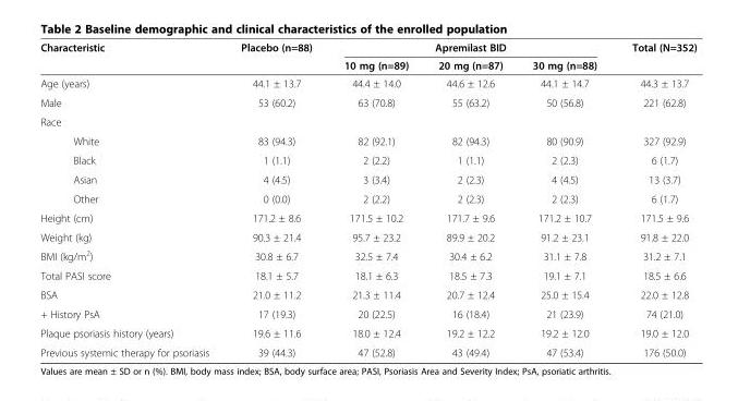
<table><thead><tr><td rowspan="2">Characteristic</td><td rowspan="2">Placebo (n=88)</td><td colspan="3">Apremilast BID</td><td rowspan="2">Total (N=352)</td></tr><tr><td>10 mg (n=89)</td><td>20 mg (n=87)</td><td>30 mg (n=88)</td></tr></thead><tbody><tr><td>Age (years)</td><td>44.1 ± 13.7</td><td>44.4 ± 14.0</td><td>44.6 ± 12.6</td><td>44.1 ± 14.7</td><td>44.3 ± 13.7</td></tr><tr><td>Male</td><td>53 (60.2)</td><td>63 (70.8)</td><td>55 (63.2)</td><td>50 (56.8)</td><td>221 (62.8)</td></tr><tr><td colspan="6">Race</td></tr><tr><td>White</td><td>83 (94.3)</td><td>82 (92.1)</td><td>82 (94.3)</td><td>80 (90.9)</td><td>327 (92.9)</td></tr><tr><td>Black</td><td>1 (1.1)</td><td>2 (2.2)</td><td>1 (1.1)</td><td>2 (2.3)</td><td>6 (1.7)</td></tr><tr><td>Asian</td><td>4 (4.5)</td><td>3 (3.4)</td><td>2 (2.3)</td><td>4 (4.5)</td><td>13 (3.7)</td></tr><tr><td>Other</td><td>0 (0.0)</td><td>2 (2.2)</td><td>2 (2.3)</td><td>2 (2.3)</td><td>6 (1.7)</td></tr><tr><td>Height (cm)</td><td>171.2 ± 8.6</td><td>171.5 ± 10.2</td><td>171.7 ± 9.6</td><td>171.2 ± 10.7</td><td>171.5 ± 9.6</td></tr><tr><td>Weight (kg)</td><td>90.3 ± 21.4</td><td>95.7 ± 23.2</td><td>89.9 ± 20.2</td><td>91.2 ± 23.1</td><td>91.8 ± 22.0</td></tr><tr><td>BMI (kg/m<sup>2</sup>)</td><td>30.8 ± 6.7</td><td>32.5 ± 7.4</td><td>30.4 ± 6.2</td><td>31.1 ± 7.8</td><td>31.2 ± 7.1</td></tr><tr><td>Total PASI score</td><td>18.1 ± 5.7</td><td>18.1 ± 6.3</td><td>18.5 ± 7.3</td><td>19.1 ± 7.1</td><td>18.5 ± 6.6</td></tr><tr><td>BSA</td><td>21.0 ± 11.2</td><td>21.3 ± 11.4</td><td>20.7 ± 12.4</td><td>25.0 ± 15.4</td><td>22.0 ± 12.8</td></tr><tr><td>+ History PsA</td><td>17 (19.3)</td><td>20 (22.5)</td><td>16 (18.4)</td><td>21 (23.9)</td><td>74 (21.0)</td></tr><tr><td>Plaque psoriasis history (years)</td><td>19.6 ± 11.6</td><td>18.0 ± 12.4</td><td>19.2 ± 12.2</td><td>19.2 ± 12.0</td><td>19.0 ± 12.0</td></tr><tr><td>Previous systemic therapy for psoriasis</td><td>39 (44.3)</td><td>47 (52.8)</td><td>43 (49.4)</td><td>47 (53.4)</td><td>176 (50.0)</td></tr></tbody></table>